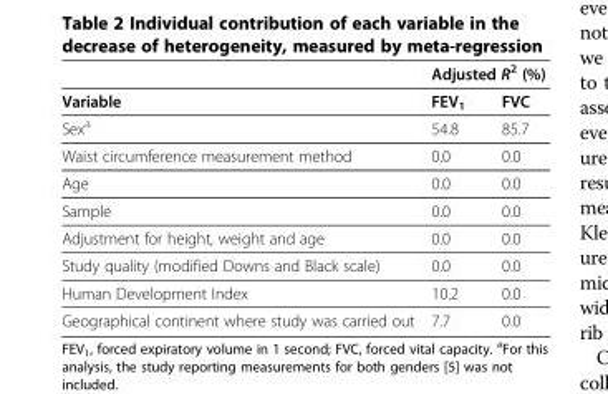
<table><thead><tr><td rowspan="2">Variable</td><td colspan="2">Adjusted R<sup>2</sup> (%)</td></tr><tr><td>FEV<sub>1</sub></td><td>FVC</td></tr></thead><tbody><tr><td>Sex<sup>a</sup></td><td>54.8</td><td>85.7</td></tr><tr><td>Waist circumference measurement method</td><td>0.0</td><td>0.0</td></tr><tr><td>Age</td><td>0.0</td><td>0.0</td></tr><tr><td>Sample</td><td>0.0</td><td>0.0</td></tr><tr><td>Adjustment for height, weight and age</td><td>0.0</td><td>0.0</td></tr><tr><td>Study quality (modified Downs and Black scale)</td><td>0.0</td><td>0.0</td></tr><tr><td>Human Development Index</td><td>10.2</td><td>0.0</td></tr><tr><td>Geographical continent where study was carried out</td><td>7.7</td><td>0.0</td></tr></tbody></table>